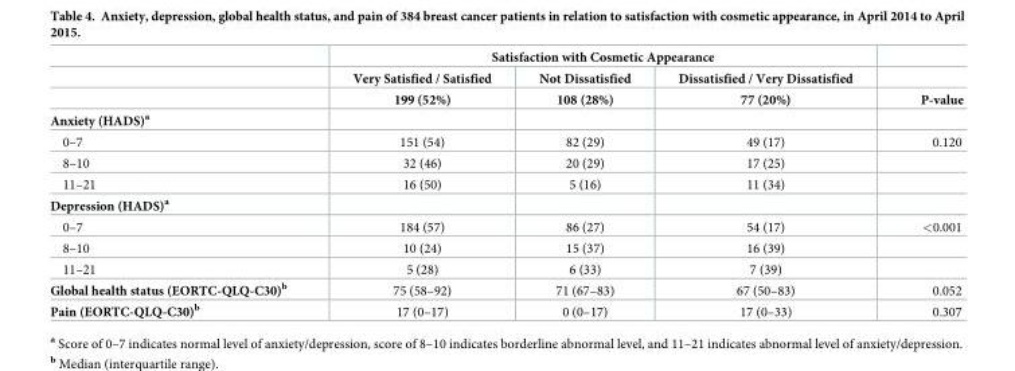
<table><thead><tr><td rowspan="3"></td><td colspan="3">Satisfaction with Cosmetic Appearance</td><td rowspan="3">P-value</td></tr><tr><td rowspan="2">Very Satisfied / Satisfied 199 (52%)</td><td rowspan="2">Not Dissatisfied 108 (28%)</td><td rowspan="2">Dissatisfied / Very Dissatisfied 77 (20%)</td></tr><tr></tr></thead><tbody><tr><td colspan="5">Anxiety (HADS)<sup>a</sup></td></tr><tr><td>0–7</td><td>151 (54)</td><td>82 (29)</td><td>49 (17)</td><td>0.120</td></tr><tr><td>8–10</td><td>32 (46)</td><td>20 (29)</td><td>17 (25)</td><td></td></tr><tr><td>11–21</td><td>16 (50)</td><td>5 (16)</td><td>11 (34)</td><td></td></tr><tr><td colspan="5">Depression (HADS)<sup>a</sup></td></tr><tr><td>0–7</td><td>184 (57)</td><td>86 (27)</td><td>54 (17)</td><td>&lt;0.001</td></tr><tr><td>8–10</td><td>10 (24)</td><td>15 (37)</td><td>16 (39)</td><td></td></tr><tr><td>11–21</td><td>5 (28)</td><td>6 (33)</td><td>7 (39)</td><td></td></tr><tr><td>Global health status (EORTC-QLQ-C30)<sup>b</sup></td><td>75 (58–92)</td><td>71 (67–83)</td><td>67 (50–83)</td><td>0.052</td></tr><tr><td>Pain (EORTC-QLQ-C30)<sup>b</sup></td><td>17 (0–17)</td><td>0 (0–17)</td><td>17 (0–33)</td><td>0.307</td></tr></tbody></table>